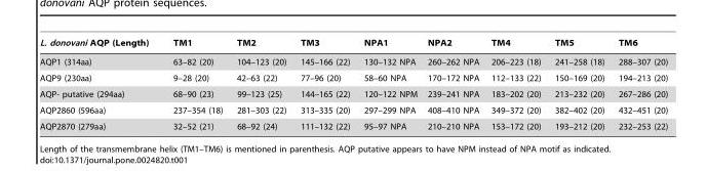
<table><thead><tr><td>L. donovani AQP (Length)</td><td>TM1</td><td>TM2</td><td>TM3</td><td>NPA1</td><td>NPA2</td><td>TM4</td><td>TM5</td><td>TM6</td></tr></thead><tbody><tr><td>AQP1 (314aa)</td><td>63–82 (20)</td><td>104–123 (20)</td><td>145–166 (22)</td><td>130–132 NPA</td><td>260–262 NPA</td><td>206–223 (18)</td><td>241–258 (18)</td><td>288–307 (20)</td></tr><tr><td>AQP9 (230aa)</td><td>9–28 (20)</td><td>42–63 (22)</td><td>77–96 (20)</td><td>58–60 NPA</td><td>170–172 NPA</td><td>112–133 (22)</td><td>150–169 (20)</td><td>194–213 (20)</td></tr><tr><td>AQP- putative (294aa)</td><td>68–90 (23)</td><td>99–123 (25)</td><td>144–165 (22)</td><td>120–122 NPM</td><td>239–241 NPA</td><td>183–202 (20)</td><td>213–232 (20)</td><td>267–286 (20)</td></tr><tr><td>AQP2860 (596aa)</td><td>237–354 (18)</td><td>281–303 (22)</td><td>313–335 (20)</td><td>297–299 NPA</td><td>408–410 NPA</td><td>349–372 (20)</td><td>382–402 (20)</td><td>432–451 (20)</td></tr><tr><td>AQP2870 (279aa)</td><td>32–52 (21)</td><td>68–92 (24)</td><td>111–132 (22)</td><td>95–97 NPA</td><td>210–210 NPA</td><td>153–172 (20)</td><td>193–212 (20)</td><td>232–253 (22)</td></tr></tbody></table>